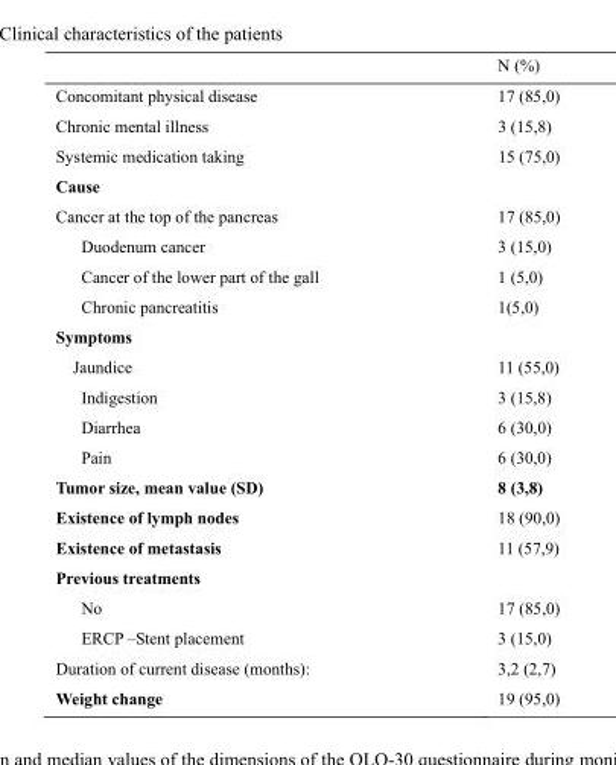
<table><thead><tr><td></td><td>Ν (%)</td></tr></thead><tbody><tr><td>Concomitant physical disease</td><td>17 (85,0)</td></tr><tr><td>Chronic mental illness</td><td>3 (15,8)</td></tr><tr><td>Systemic medication taking</td><td>15 (75,0)</td></tr><tr><td colspan="2">Cause</td></tr><tr><td>Cancer at the top of the pancreas</td><td>17 (85,0)</td></tr><tr><td>Duodenum cancer</td><td>3 (15,0)</td></tr><tr><td>Cancer of the lower part of the gall Chronic pancreatitis</td><td>1 (5,0) 1(5,0)</td></tr><tr><td colspan="2">Symptoms</td></tr><tr><td>Jaundice</td><td>11 (55,0)</td></tr><tr><td>Indigestion</td><td>3 (15,8)</td></tr><tr><td>Diarrhea</td><td>6 (30,0)</td></tr><tr><td>Pain</td><td>6 (30,0)</td></tr><tr><td>Tumor size, mean value (SD)</td><td>8 (3,8)</td></tr><tr><td>Existence of lymph nodes</td><td>18 (90,0)</td></tr><tr><td>Existence of metastasis</td><td>11 (57,9)</td></tr><tr><td colspan="2">Previous treatments</td></tr><tr><td>No</td><td>17 (85,0)</td></tr><tr><td>ERCP –Stent placement</td><td>3 (15,0)</td></tr><tr><td>Duration of current disease (months):</td><td>3,2 (2,7)</td></tr><tr><td>Weight change</td><td>19 (95,0)</td></tr></tbody></table>